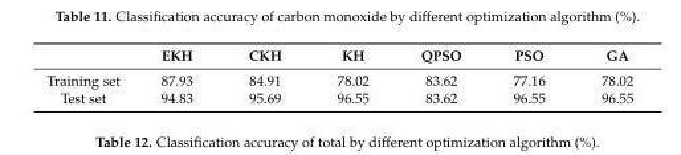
<table><thead><tr><td></td><td>EKH</td><td>CKH</td><td>KH</td><td>QPSO</td><td>PSO</td><td>GA</td></tr></thead><tbody><tr><td>Training set</td><td>87.93</td><td>84.91</td><td>78.02</td><td>83.62</td><td>77.16</td><td>78.02</td></tr><tr><td>Test set</td><td>94.83</td><td>95.69</td><td>96.55</td><td>83.62</td><td>96.55</td><td>96.55</td></tr></tbody></table>